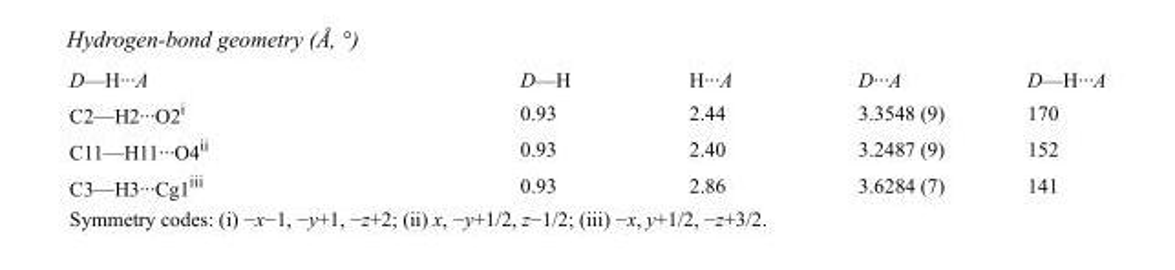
<table><tbody><tr><td>D—H···A</td><td>D—H</td><td>H···A</td><td>D···A</td><td>D—H···A</td></tr><tr><td>C2—H2···O2<sup>i</sup></td><td>0.93</td><td>2.44</td><td>3.3548 (9)</td><td>170</td></tr><tr><td>C11—H11···O4<sup>ii</sup></td><td>0.93</td><td>2.40</td><td>3.2487 (9)</td><td>152</td></tr><tr><td>C3—H3···Cg1<sup>iii</sup></td><td>0.93</td><td>2.86</td><td>3.6284 (7)</td><td>141</td></tr></tbody></table>